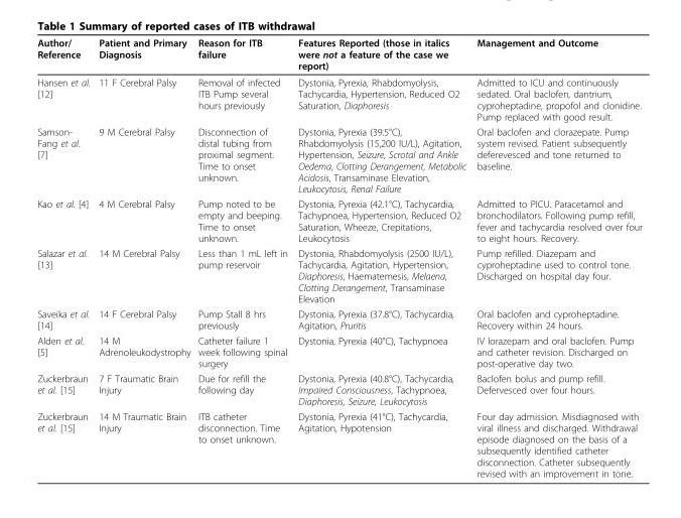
<table><thead><tr><td>Author/ Reference</td><td>Patient and Primary Diagnosis</td><td>Reason for ITB failure</td><td>Features Reported (those in italics were not a feature of the case we report)</td><td>Management and Outcome</td></tr></thead><tbody><tr><td>Hansen et al. [12]</td><td>11 F Cerebral Palsy</td><td>Removal of infected ITB Pump several hours previously</td><td>Dystonia, Pyrexia, Rhabdomyolysis, Tachycardia, Hypertension, Reduced O2 Saturation, Diaphoresis</td><td>Admitted to ICU and continuously sedated. Oral baclofen, dantrium, cyproheptadine, propofol and clonidine. Pump replaced with good result.</td></tr><tr><td>Samson- Fang et al. [7]</td><td>9 M Cerebral Palsy</td><td>Disconnection of distal tubing from proximal segment. Time to onset unknown.</td><td>Dystonia, Pyrexia (39.5°C), Rhabdomyolysis (15,200 IU/L), Agitation, Hypertension, Seizure, Scrotal and Ankle Oedema, Clotting Derangement, Metabolic Acidosis, Transaminase Elevation, Leukocytosis, Renal Failure</td><td>Oral baclofen and clorazepate. Pump system revised. Patient subsequently deferevesced and tone returned to baseline.</td></tr><tr><td>Kao et al. [4]</td><td>4 M Cerebral Palsy</td><td>Pump noted to be empty and beeping. Time to onset unknown.</td><td>Dystonia, Pyrexia (42.1°C), Tachycardia, Tachypnoea, Hypertension, Reduced O2 Saturation, Wheeze, Crepitations, Leukocytosis</td><td>Admitted to PICU. Paracetamol and bronchodilators. Following pump refill, fever and tachycardia resolved over four to eight hours. Recovery.</td></tr><tr><td>Salazar et al. [13]</td><td>14 M Cerebral Palsy</td><td>Less than 1 mL left in pump reservoir</td><td>Dystonia, Rhabdomyolysis (2500 IU/L), Tachycardia, Agitation, Hypertension, Diaphoresis, Haematemesis, Melaena, Clotting Derangement, Transaminase Elevation</td><td>Pump refilled. Diazepam and cyproheptadine used to control tone. Discharged on hospital day four.</td></tr><tr><td>Saveika et al. [14]</td><td>14 F Cerebral Palsy</td><td>Pump Stall 8 hrs previously</td><td>Dystonia, Pyrexia (37.8°C), Tachycardia, Agitation, Pruritis</td><td>Oral baclofen and cyproheptadine. Recovery within 24 hours.</td></tr><tr><td>Alden et al. [5]</td><td>14 M Adrenoleukodystrophy</td><td>Catheter failure 1 week following spinal surgery</td><td>Dystonia, Pyrexia (40°C), Tachypnoea</td><td>IV lorazepam and oral baclofen. Pump and catheter revision. Discharged on post-operative day two.</td></tr><tr><td>Zuckerbraun et al. [15]</td><td>7 F Traumatic Brain Injury</td><td>Due for refill the following day</td><td>Dystonia, Pyrexia (40.8°C), Tachycardia, Impaired Consciousness, Tachypnoea, Diaphoresis, Seizure, Leukocytosis</td><td>Baclofen bolus and pump refill. Defervesced over four hours.</td></tr><tr><td>Zuckerbraun et al. [15]</td><td>14 M Traumatic Brain Injury</td><td>ITB catheter disconnection. Time to onset unknown.</td><td>Dystonia, Pyrexia (41°C), Tachycardia, Agitation, Hypotension</td><td>Four day admission. Misdiagnosed with viral illness and discharged. Withdrawal episode diagnosed on the basis of a subsequently identified catheter disconnection. Catheter subsequently revised with an improvement in tone.</td></tr></tbody></table>